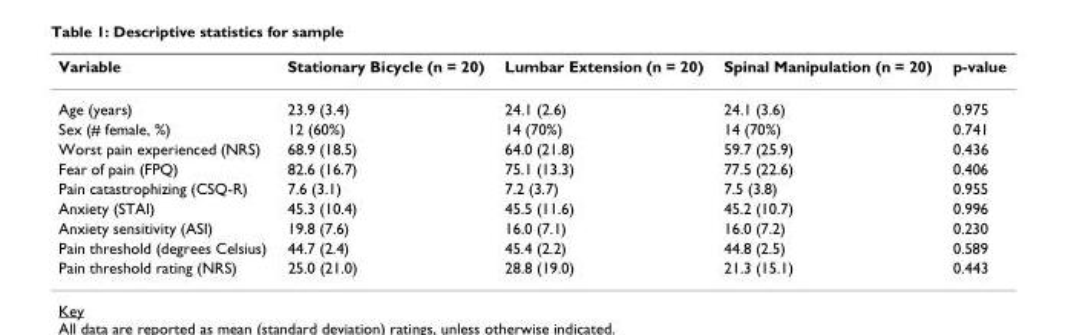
<table><thead><tr><td>Variable</td><td>Stationary Bicycle (n = 20)</td><td>Lumbar Extension (n = 20)</td><td>Spinal Manipulation (n = 20)</td><td>p-value</td></tr></thead><tbody><tr><td>Age (years)</td><td>23.9 (3.4)</td><td>24.1 (2.6)</td><td>24.1 (3.6)</td><td>0.975</td></tr><tr><td>Sex (# female, %)</td><td>12 (60%)</td><td>14 (70%)</td><td>14 (70%)</td><td>0.741</td></tr><tr><td>Worst pain experienced (NRS)</td><td>68.9 (18.5)</td><td>64.0 (21.8)</td><td>59.7 (25.9)</td><td>0.436</td></tr><tr><td>Fear of pain (FPQ)</td><td>82.6 (16.7)</td><td>75.1 (13.3)</td><td>77.5 (22.6)</td><td>0.406</td></tr><tr><td>Pain catastrophizing (CSQ-R)</td><td>7.6 (3.1)</td><td>7.2 (3.7)</td><td>7.5 (3.8)</td><td>0.955</td></tr><tr><td>Anxiety (STAI)</td><td>45.3 (10.4)</td><td>45.5 (11.6)</td><td>45.2 (10.7)</td><td>0.996</td></tr><tr><td>Anxiety sensitivity (ASI)</td><td>19.8 (7.6)</td><td>16.0 (7.1)</td><td>16.0 (7.2)</td><td>0.230</td></tr><tr><td>Pain threshold (degrees Celsius)</td><td>44.7 (2.4)</td><td>45.4 (2.2)</td><td>44.8 (2.5)</td><td>0.589</td></tr><tr><td>Pain threshold rating (NRS)</td><td>25.0 (21.0)</td><td>28.8 (19.0)</td><td>21.3 (15.1)</td><td>0.443</td></tr></tbody></table>